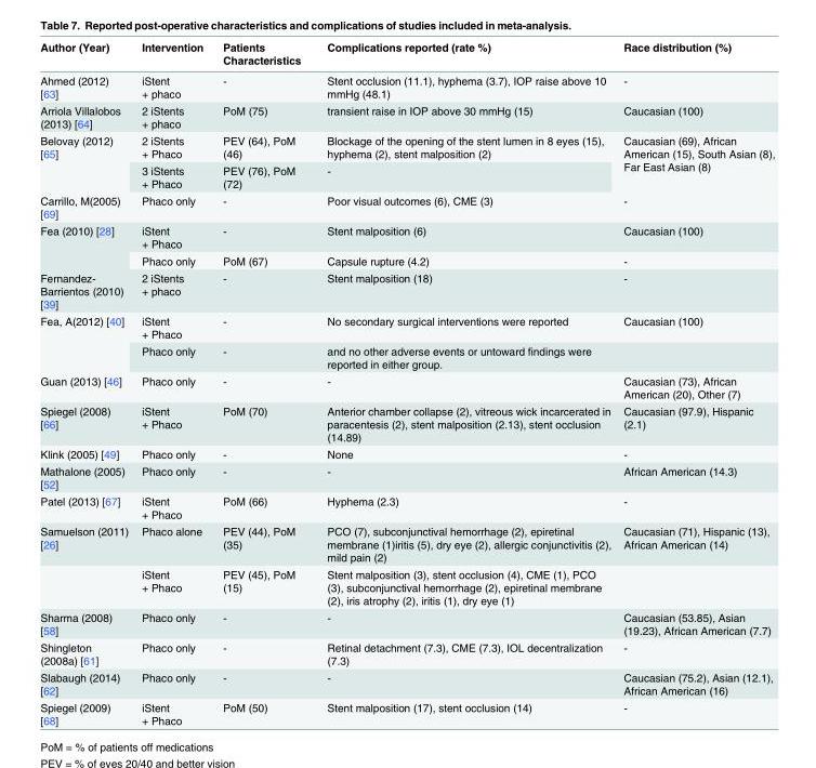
<table><thead><tr><td>Author (Year)</td><td>Intervention</td><td>Patients Characteristics</td><td>Complications reported (rate %)</td><td>Race distribution (%)</td></tr></thead><tbody><tr><td>Ahmed (2012) [63]</td><td>iStent + phaco</td><td>-</td><td>Stent occlusion (11.1), hyphema (3.7), IOP raise above 10 mmHg (48.1)</td><td>-</td></tr><tr><td>Arriola Villalobos (2013) [64]</td><td>2 iStents + phaco</td><td>PoM (75)</td><td>transient raise in IOP above 30 mmHg (15)</td><td>Caucasian (100)</td></tr><tr><td rowspan="2">Belovay (2012) [65]</td><td>2 iStents + Phaco</td><td>PEV (64), PoM (46)</td><td>Blockage of the opening of the stent lumen in 8 eyes (15), hyphema (2), stent malposition (2)</td><td rowspan="2">Caucasian (69), African American (15), South Asian (8), Far East Asian (8)</td></tr><tr><td>3 iStents + Phaco</td><td>PEV (76), PoM (72)</td><td>-</td></tr><tr><td>Carrillo, M(2005) [69]</td><td>Phaco only</td><td>-</td><td>Poor visual outcomes (6), CME (3)</td><td>-</td></tr><tr><td rowspan="2">Fea (2010) [28]</td><td>iStent + Phaco</td><td>-</td><td>Stent malposition (6)</td><td>Caucasian (100)</td></tr><tr><td>Phaco only</td><td>PoM (67)</td><td>Capsule rupture (4.2)</td><td>-</td></tr><tr><td>Fernandez- Barrientos (2010) [39]</td><td>2 iStents + phaco</td><td>-</td><td>Stent malposition (18)</td><td>-</td></tr><tr><td rowspan="2">Fea, A(2012) [40]</td><td>iStent + Phaco</td><td>-</td><td>No secondary surgical interventions were reported</td><td>Caucasian (100)</td></tr><tr><td>Phaco only</td><td>-</td><td>and no other adverse events or untoward findings were reported in either group.</td><td></td></tr><tr><td>Guan (2013) [46]</td><td>Phaco only</td><td>-</td><td>-</td><td>Caucasian (73), African American (20), Other (7)</td></tr><tr><td>Spiegel (2008) [66]</td><td>iStent + Phaco</td><td>PoM (70)</td><td>Anterior chamber collapse (2), vitreous wick incarcerated in paracentesis (2), stent malposition (2.13), stent occlusion (14.89)</td><td>Caucasian (97.9), Hispanic (2.1)</td></tr><tr><td>Klink (2005) [49]</td><td>Phaco only</td><td>-</td><td>None</td><td>-</td></tr><tr><td>Mathalone (2005) [52]</td><td>Phaco only</td><td>-</td><td>-</td><td>African American (14.3)</td></tr><tr><td>Patel (2013) [67]</td><td>iStent + Phaco</td><td>PoM (66)</td><td>Hyphema (2.3)</td><td>-</td></tr><tr><td rowspan="2">Samuelson (2011) [26]</td><td>Phaco alone</td><td>PEV (44), PoM (35)</td><td>PCO (7), subconjunctival hemorrhage (2), epiretinal membrane (1)iritis (5), dry eye (2), allergic conjunctivitis (2), mild pain (2)</td><td>Caucasian (71), Hispanic (13), African American (14)</td></tr><tr><td>iStent + Phaco</td><td>PEV (45), PoM (15)</td><td>Stent malposition (3), stent occlusion (4), CME (1), PCO (3), subconjunctival hemorrhage (2), epiretinal membrane (2), iris atrophy (2), iritis (1), dry eye (1)</td><td></td></tr><tr><td>Sharma (2008) [58]</td><td>Phaco only</td><td>-</td><td>-</td><td>Caucasian (53.85), Asian (19.23), African American (7.7)</td></tr><tr><td>Shingleton (2008a) [61]</td><td>Phaco only</td><td>-</td><td>Retinal detachment (7.3), CME (7.3), IOL decentralization (7.3)</td><td>-</td></tr><tr><td>Slabaugh (2014) [62]</td><td>Phaco only</td><td>-</td><td>-</td><td>Caucasian (75.2), Asian (12.1), African American (16)</td></tr><tr><td>Spiegel (2009) [68]</td><td>iStent + Phaco</td><td>PoM (50)</td><td>Stent malposition (17), stent occlusion (14)</td><td>-</td></tr></tbody></table>